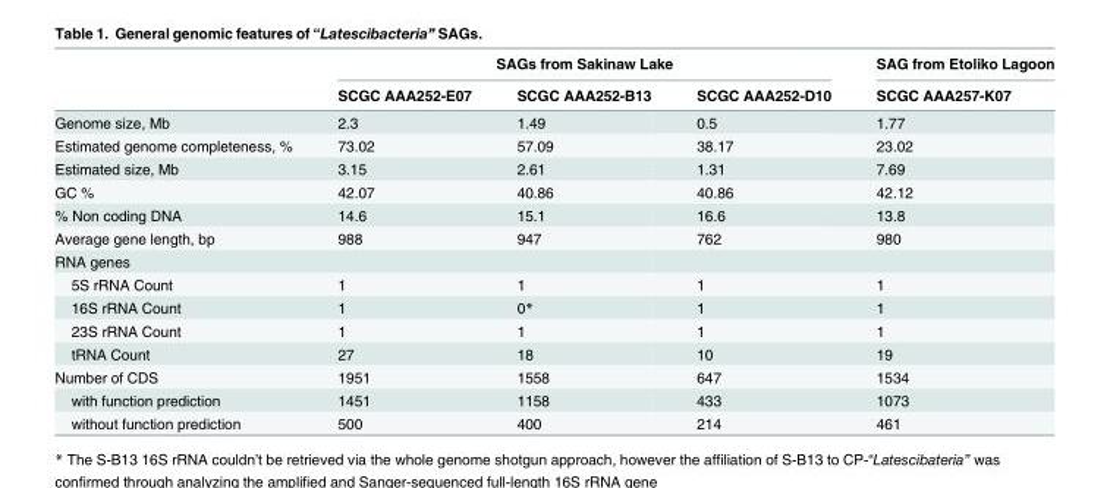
<table><thead><tr><td rowspan="2"></td><td colspan="3">SAGs from Sakinaw Lake</td><td rowspan="2">SAG from Etoliko Lagoon SCGC AAA257-K07</td></tr><tr><td>SCGC AAA252-E07</td><td>SCGC AAA252-B13</td><td>SCGC AAA252-D10</td></tr></thead><tbody><tr><td>Genome size, Mb</td><td>2.3</td><td>1.49</td><td>0.5</td><td>1.77</td></tr><tr><td>Estimated genome completeness, %</td><td>73.02</td><td>57.09</td><td>38.17</td><td>23.02</td></tr><tr><td>Estimated size, Mb</td><td>3.15</td><td>2.61</td><td>1.31</td><td>7.69</td></tr><tr><td>GC %</td><td>42.07</td><td>40.86</td><td>40.86</td><td>42.12</td></tr><tr><td>% Non coding DNA</td><td>14.6</td><td>15.1</td><td>16.6</td><td>13.8</td></tr><tr><td>Average gene length, bp</td><td>988</td><td>947</td><td>762</td><td>980</td></tr><tr><td colspan="5">RNA genes</td></tr><tr><td>5S rRNA Count</td><td>1</td><td>1</td><td>1</td><td>1</td></tr><tr><td>16S rRNA Count</td><td>1</td><td>0*</td><td>1</td><td>1</td></tr><tr><td>23S rRNA Count</td><td>1</td><td>1</td><td>1</td><td>1</td></tr><tr><td>tRNA Count</td><td>27</td><td>18</td><td>10</td><td>19</td></tr><tr><td>Number of CDS</td><td>1951</td><td>1558</td><td>647</td><td>1534</td></tr><tr><td>with function prediction</td><td>1451</td><td>1158</td><td>433</td><td>1073</td></tr><tr><td>without function prediction</td><td>500</td><td>400</td><td>214</td><td>461</td></tr></tbody></table>